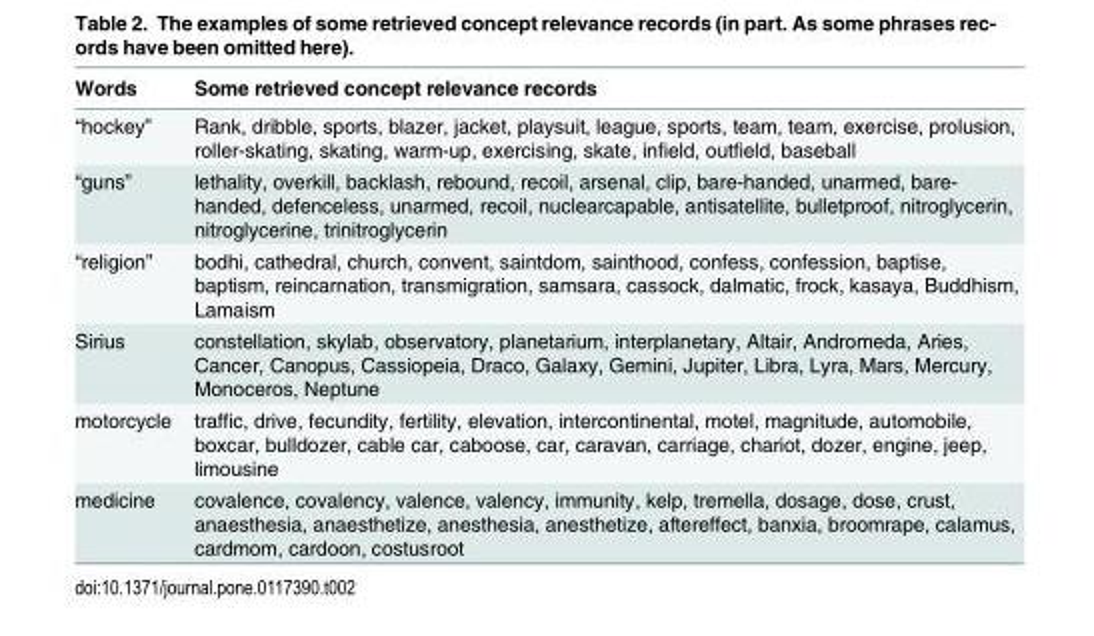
<table><thead><tr><td>Words</td><td>Some retrieved concept relevance records</td></tr></thead><tbody><tr><td>“hockey”</td><td>Rank, dribble, sports, blazer, jacket, playsuit, league, sports, team, team, exercise, prolusion, roller-skating, skating, warm-up, exercising, skate, infield, outfield, baseball</td></tr><tr><td>“guns”</td><td>lethality, overkill, backlash, rebound, recoil, arsenal, clip, bare-handed, unarmed, bare- handed, defenceless, unarmed, recoil, nuclearcapable, antisatellite, bulletproof, nitroglycerin, nitroglycerine, trinitroglycerin</td></tr><tr><td>“religion”</td><td>bodhi, cathedral, church, convent, saintdom, sainthood, confess, confession, baptise, baptism, reincarnation, transmigration, samsara, cassock, dalmatic, frock, kasaya, Buddhism, Lamaism</td></tr><tr><td>Sirius</td><td>constellation, skylab, observatory, planetarium, interplanetary, Altair, Andromeda, Aries, Cancer, Canopus, Cassiopeia, Draco, Galaxy, Gemini, Jupiter, Libra, Lyra, Mars, Mercury, Monoceros, Neptune</td></tr><tr><td>motorcycle</td><td>traffic, drive, fecundity, fertility, elevation, intercontinental, motel, magnitude, automobile, boxcar, bulldozer, cable car, caboose, car, caravan, carriage, chariot, dozer, engine, jeep, limousine</td></tr><tr><td>medicine</td><td>covalence, covalency, valence, valency, immunity, kelp, tremella, dosage, dose, crust, anaesthesia, anaesthetize, anesthesia, anesthetize, aftereffect, banxia, broomrape, calamus, cardmom, cardoon, costusroot</td></tr></tbody></table>